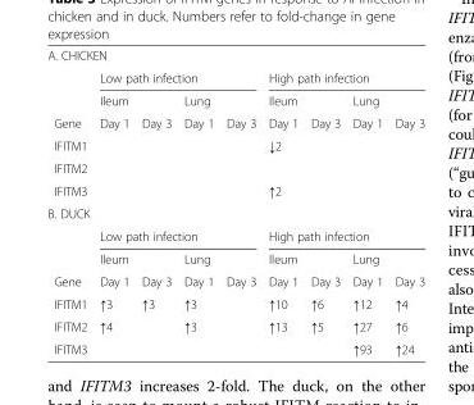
<table><tbody><tr><td colspan="9">A. CHICKEN</td></tr><tr><td></td><td colspan="4">Low path infection</td><td colspan="4">High path infection</td></tr><tr><td></td><td>Ileum</td><td></td><td>Lung</td><td></td><td>Ileum</td><td></td><td>Lung</td><td></td></tr><tr><td>Gene</td><td>Day 1</td><td>Day 3</td><td>Day 1</td><td>Day 3</td><td>Day 1</td><td>Day 3</td><td>Day 1</td><td>Day 3</td></tr><tr><td>IFITM1</td><td></td><td></td><td></td><td></td><td>↓2</td><td></td><td></td><td></td></tr><tr><td colspan="9">IFITM2</td></tr><tr><td>IFITM3</td><td></td><td></td><td></td><td></td><td>↑2</td><td></td><td></td><td></td></tr><tr><td colspan="9">B. DUCK</td></tr><tr><td></td><td colspan="4">Low path infection</td><td colspan="4">High path infection</td></tr><tr><td></td><td>Ileum</td><td></td><td>Lung</td><td></td><td>Ileum</td><td></td><td>Lung</td><td></td></tr><tr><td>Gene</td><td>Day 1</td><td>Day 3</td><td>Day 1</td><td>Day 3</td><td>Day 1</td><td>Day 3</td><td>Day 1</td><td>Day 3</td></tr><tr><td>IFITM1</td><td>↑3</td><td>↑3</td><td>↑3</td><td></td><td>↑10</td><td>↑6</td><td>↑12</td><td>↑4</td></tr><tr><td>IFITM2</td><td>↑4</td><td></td><td>↑3</td><td></td><td>↑13</td><td>↑5</td><td>↑27</td><td>↑6</td></tr><tr><td>IFITM3</td><td></td><td></td><td></td><td></td><td></td><td></td><td>↑93</td><td>↑24</td></tr></tbody></table>